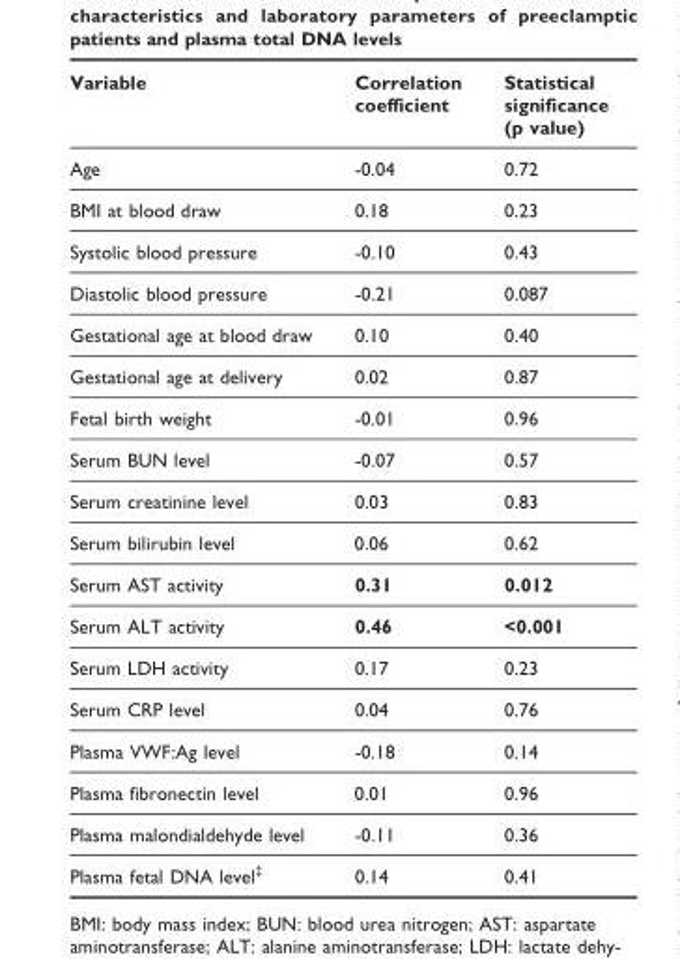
<table><thead><tr><td>Variable</td><td>Correlation coefficient</td><td>Statistical significance (p value)</td></tr></thead><tbody><tr><td>Age</td><td>-0.04</td><td>0.72</td></tr><tr><td>BMI at blood draw</td><td>0.18</td><td>0.23</td></tr><tr><td>Systolic blood pressure</td><td>-0.10</td><td>0.43</td></tr><tr><td>Diastolic blood pressure</td><td>-0.21</td><td>0.087</td></tr><tr><td>Gestational age at blood draw</td><td>0.10</td><td>0.40</td></tr><tr><td>Gestational age at delivery</td><td>0.02</td><td>0.87</td></tr><tr><td>Fetal birth weight</td><td>-0.01</td><td>0.96</td></tr><tr><td>Serum BUN level</td><td>-0.07</td><td>0.57</td></tr><tr><td>Serum creatinine level</td><td>0.03</td><td>0.83</td></tr><tr><td>Serum bilirubin level</td><td>0.06</td><td>0.62</td></tr><tr><td>Serum AST activity</td><td>0.31</td><td>0.012</td></tr><tr><td>Serum ALT activity</td><td>0.46</td><td>&lt;0.001</td></tr><tr><td>Serum LDH activity</td><td>0.17</td><td>0.23</td></tr><tr><td>Serum CRP level</td><td>0.04</td><td>0.76</td></tr><tr><td>Plasma VWF:Ag level</td><td>-0.18</td><td>0.14</td></tr><tr><td>Plasma fibronectin level</td><td>0.01</td><td>0.96</td></tr><tr><td>Plasma malondialdehyde level</td><td>-0.11</td><td>0.36</td></tr><tr><td>Plasma fetal DNA level<sup>‡</sup></td><td>0.14</td><td>0.41</td></tr></tbody></table>